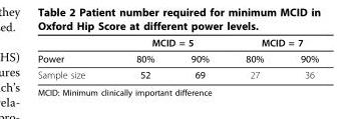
<table><thead><tr><td rowspan="2">Power</td><td colspan="2">MCID = 5</td><td colspan="2">MCID = 7</td></tr><tr><td>80%</td><td>90%</td><td>80%</td><td>90%</td></tr></thead><tbody><tr><td>Sample size</td><td>52</td><td>69</td><td>27</td><td>36</td></tr></tbody></table>